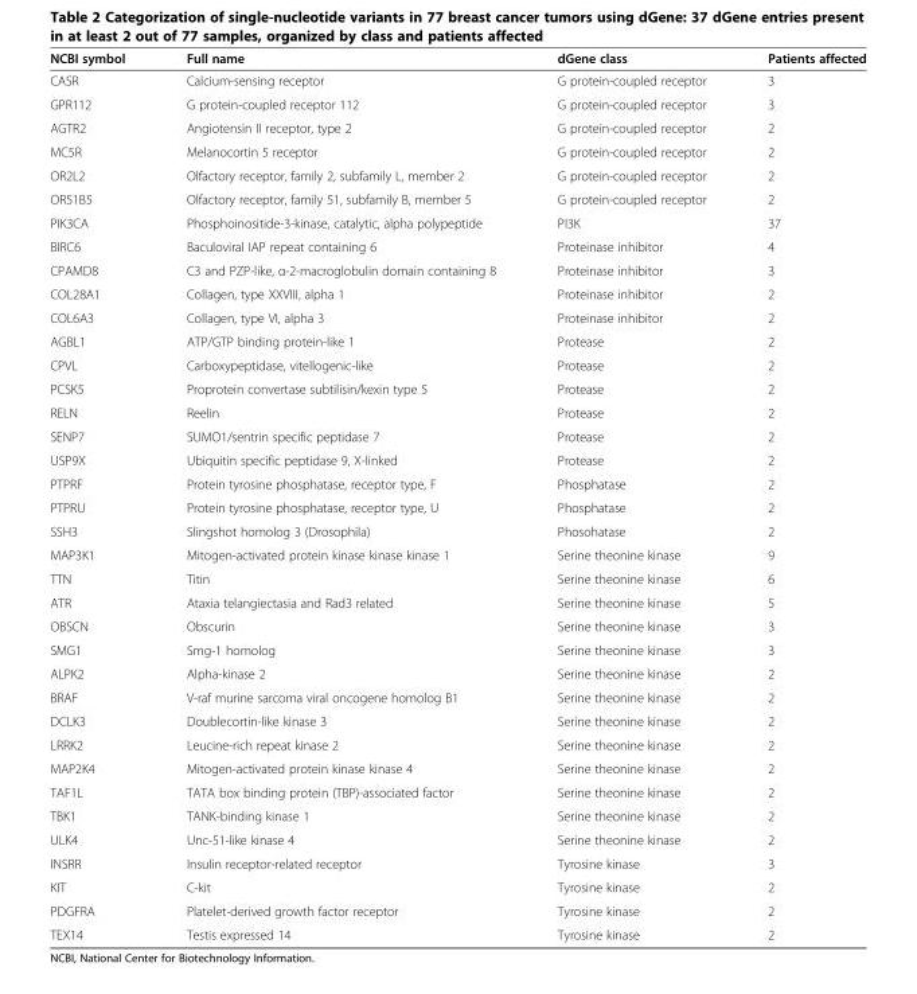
<table><thead><tr><td>NCBI symbol</td><td>Full name</td><td>dGene class</td><td>Patients affected</td></tr></thead><tbody><tr><td>CASR</td><td>Calcium-sensing receptor</td><td>G protein-coupled receptor</td><td>3</td></tr><tr><td>GPR112</td><td>G protein-coupled receptor 112</td><td>G protein-coupled receptor</td><td>3</td></tr><tr><td>AGTR2</td><td>Angiotensin II receptor, type 2</td><td>G protein-coupled receptor</td><td>2</td></tr><tr><td>MC5R</td><td>Melanocortin 5 receptor</td><td>G protein-coupled receptor</td><td>2</td></tr><tr><td>OR2L2</td><td>Olfactory receptor, family 2, subfamily L, member 2</td><td>G protein-coupled receptor</td><td>2</td></tr><tr><td>OR51B5</td><td>Olfactory receptor, family 51, subfamily B, member 5</td><td>G protein-coupled receptor</td><td>2</td></tr><tr><td>PIK3CA</td><td>Phosphoinositide-3-kinase, catalytic, alpha polypeptide</td><td>PI3K</td><td>37</td></tr><tr><td>BIRC6</td><td>Baculoviral IAP repeat containing 6</td><td>Proteinase inhibitor</td><td>4</td></tr><tr><td>CPAMD8</td><td>C3 and PZP-like, α-2-macroglobulin domain containing 8</td><td>Proteinase inhibitor</td><td>3</td></tr><tr><td>COL28A1</td><td>Collagen, type XXVIII, alpha 1</td><td>Proteinase inhibitor</td><td>2</td></tr><tr><td>COL6A3</td><td>Collagen, type VI, alpha 3</td><td>Proteinase inhibitor</td><td>2</td></tr><tr><td>AGBL1</td><td>ATP/GTP binding protein-like 1</td><td>Protease</td><td>2</td></tr><tr><td>CPVL</td><td>Carboxypeptidase, vitellogenic-like</td><td>Protease</td><td>2</td></tr><tr><td>PCSK5</td><td>Proprotein convertase subtilisin/kexin type 5</td><td>Protease</td><td>2</td></tr><tr><td>RELN</td><td>Reelin</td><td>Protease</td><td>2</td></tr><tr><td>SENP7</td><td>SUMO1/sentrin specific peptidase 7</td><td>Protease</td><td>2</td></tr><tr><td>USP9X</td><td>Ubiquitin specific peptidase 9, X-linked</td><td>Protease</td><td>2</td></tr><tr><td>PTPRF</td><td>Protein tyrosine phosphatase, receptor type, F</td><td>Phosphatase</td><td>2</td></tr><tr><td>PTPRU</td><td>Protein tyrosine phosphatase, receptor type, U</td><td>Phosphatase</td><td>2</td></tr><tr><td>SSH3</td><td>Slingshot homolog 3 (Drosophila)</td><td>Phosohatase</td><td>2</td></tr><tr><td>MAP3K1</td><td>Mitogen-activated protein kinase kinase kinase 1</td><td>Serine theonine kinase</td><td>9</td></tr><tr><td>TTN</td><td>Titin</td><td>Serine theonine kinase</td><td>6</td></tr><tr><td>ATR</td><td>Ataxia telangiectasia and Rad3 related</td><td>Serine theonine kinase</td><td>5</td></tr><tr><td>OBSCN</td><td>Obscurin</td><td>Serine theonine kinase</td><td>3</td></tr><tr><td>SMG1</td><td>Smg-1 homolog</td><td>Serine theonine kinase</td><td>3</td></tr><tr><td>ALPK2</td><td>Alpha-kinase 2</td><td>Serine theonine kinase</td><td>2</td></tr><tr><td>BRAF</td><td>V-raf murine sarcoma viral oncogene homolog B1</td><td>Serine theonine kinase</td><td>2</td></tr><tr><td>DCLK3</td><td>Doublecortin-like kinase 3</td><td>Serine theonine kinase</td><td>2</td></tr><tr><td>LRRK2</td><td>Leucine-rich repeat kinase 2</td><td>Serine theonine kinase</td><td>2</td></tr><tr><td>MAP2K4</td><td>Mitogen-activated protein kinase kinase 4</td><td>Serine theonine kinase</td><td>2</td></tr><tr><td>TAF1L</td><td>TATA box binding protein (TBP)-associated factor</td><td>Serine theonine kinase</td><td>2</td></tr><tr><td>TBK1</td><td>TANK-binding kinase 1</td><td>Serine theonine kinase</td><td>2</td></tr><tr><td>ULK4</td><td>Unc-51-like kinase 4</td><td>Serine theonine kinase</td><td>2</td></tr><tr><td>INSRR</td><td>Insulin receptor-related receptor</td><td>Tyrosine kinase</td><td>3</td></tr><tr><td>KIT</td><td>C-kit</td><td>Tyrosine kinase</td><td>2</td></tr><tr><td>PDGFRA</td><td>Platelet-derived growth factor receptor</td><td>Tyrosine kinase</td><td>2</td></tr><tr><td>TEX14</td><td>Testis expressed 14</td><td>Tyrosine kinase</td><td>2</td></tr></tbody></table>